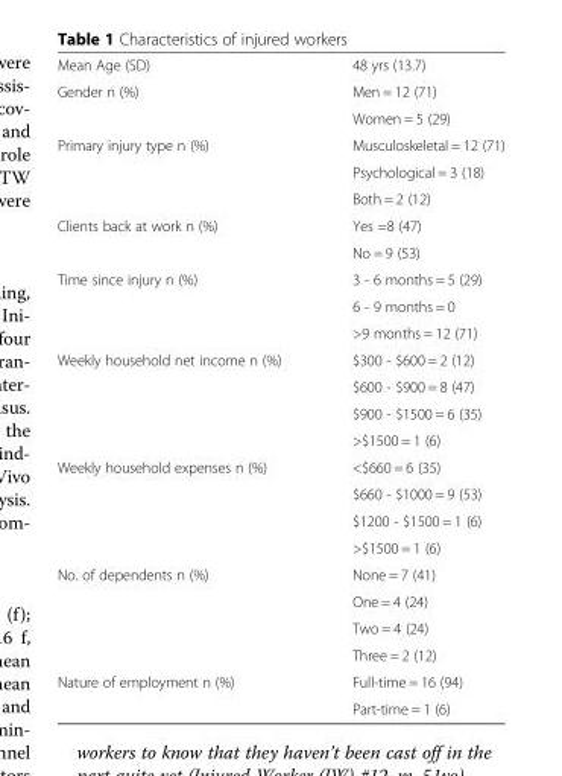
<table><tbody><tr><td>Mean Age (SD)</td><td>48 yrs (13.7)</td></tr><tr><td rowspan="2">Gender n (%)</td><td>Men = 12 (71)</td></tr><tr><td>Women = 5 (29)</td></tr><tr><td rowspan="3">Primary injury type n (%)</td><td>Musculoskeletal = 12 (71)</td></tr><tr><td>Psychological = 3 (18)</td></tr><tr><td>Both = 2 (12)</td></tr><tr><td rowspan="2">Clients back at work n (%)</td><td>Yes =8 (47)</td></tr><tr><td>No = 9 (53)</td></tr><tr><td rowspan="3">Time since injury n (%)</td><td>3 - 6 months = 5 (29)</td></tr><tr><td>6 - 9 months = 0</td></tr><tr><td>&gt;9 months = 12 (71)</td></tr><tr><td rowspan="4">Weekly household net income n (%)</td><td>$300 - $600 = 2 (12)</td></tr><tr><td>$600 - $900 = 8 (47)</td></tr><tr><td>$900 - $1500 = 6 (35)</td></tr><tr><td>&gt;$1500 = 1 (6)</td></tr><tr><td rowspan="4">Weekly household expenses n (%)</td><td>&lt;$660 = 6 (35)</td></tr><tr><td>$660 - $1000 = 9 (53)</td></tr><tr><td>$1200 - $1500 = 1 (6)</td></tr><tr><td>&gt;$1500 = 1 (6)</td></tr><tr><td rowspan="4">No. of dependents n (%)</td><td>None = 7 (41)</td></tr><tr><td>One = 4 (24)</td></tr><tr><td>Two = 4 (24)</td></tr><tr><td>Three = 2 (12)</td></tr><tr><td rowspan="2">Nature of employment n (%)</td><td>Full-time = 16 (94)</td></tr><tr><td>Part-time = 1 (6)</td></tr></tbody></table>